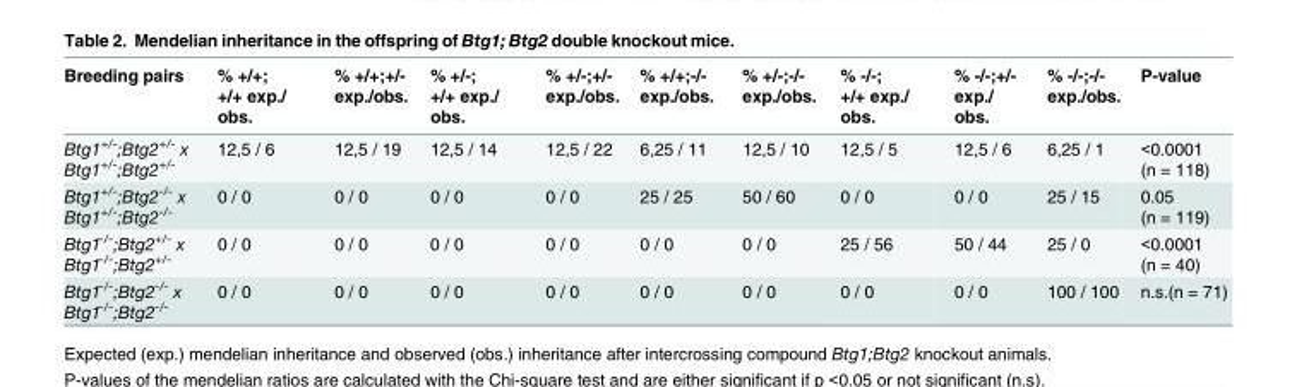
<table><thead><tr><td>Breeding pairs</td><td>% +/+; +/+ exp./ obs.</td><td>% +/+;+/- exp./obs.</td><td>% +/-; +/+ exp./ obs.</td><td>% +/-;+/- exp./obs.</td><td>% +/+;-/- exp./obs.</td><td>% +/-;-/- exp./obs.</td><td>% -/-; +/+ exp./ obs.</td><td>% -/-;+/- exp./ obs.</td><td>% -/-;-/- exp./obs.</td><td>P-value</td></tr></thead><tbody><tr><td>Btg1<sup>+/-</sup>;Btg2<sup>+/-</sup> x Btg1<sup>+/-</sup>;Btg2<sup>+/-</sup></td><td>12,5 / 6</td><td>12,5 / 19</td><td>12,5 / 14</td><td>12,5 / 22</td><td>6,25 / 11</td><td>12,5 / 10</td><td>12,5 / 5</td><td>12,5 / 6</td><td>6,25 / 1</td><td>&lt;0.0001 (n = 118)</td></tr><tr><td>Btg1<sup>+/-</sup>;Btg2<sup>-/-</sup> x Btg1<sup>+/-</sup>;Btg2<sup>-/-</sup></td><td>0 / 0</td><td>0 / 0</td><td>0 / 0</td><td>0 / 0</td><td>25 / 25</td><td>50 / 60</td><td>0 / 0</td><td>0 / 0</td><td>25 / 15</td><td>0.05 (n = 119)</td></tr><tr><td>Btg1<sup>-/-</sup>;Btg2<sup>+/-</sup> x Btg1<sup>-/-</sup>;Btg2<sup>+/-</sup></td><td>0 / 0</td><td>0 / 0</td><td>0 / 0</td><td>0 / 0</td><td>0 / 0</td><td>0 / 0</td><td>25 / 56</td><td>50 / 44</td><td>25 / 0</td><td>&lt;0.0001 (n = 40)</td></tr><tr><td>Btg1<sup>-/-</sup>;Btg2<sup>-/-</sup> x Btg1<sup>-/-</sup>;Btg2<sup>-/-</sup></td><td>0 / 0</td><td>0 / 0</td><td>0 / 0</td><td>0 / 0</td><td>0 / 0</td><td>0 / 0</td><td>0 / 0</td><td>0 / 0</td><td>100 / 100</td><td>n.s.(n = 71)</td></tr></tbody></table>